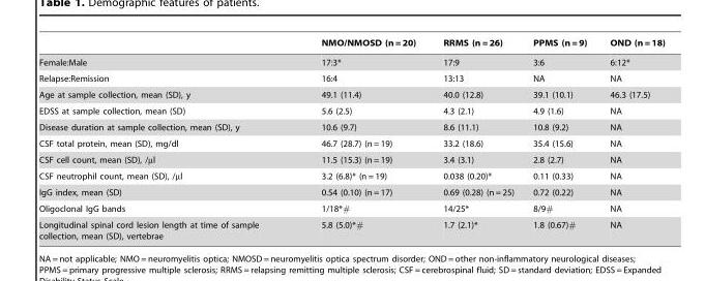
<table><thead><tr><td></td><td>NMO/NMOSD (n = 20)</td><td>RRMS (n = 26)</td><td>PPMS (n = 9)</td><td>OND (n = 18)</td></tr></thead><tbody><tr><td>Female:Male</td><td>17:3*</td><td>17:9</td><td>3:6</td><td>6:12*</td></tr><tr><td>Relapse:Remission</td><td>16:4</td><td>13:13</td><td>NA</td><td>NA</td></tr><tr><td>Age at sample collection, mean (SD), y</td><td>49.1 (11.4)</td><td>40.0 (12.8)</td><td>39.1 (10.1)</td><td>46.3 (17.5)</td></tr><tr><td>EDSS at sample collection, mean (SD)</td><td>5.6 (2.5)</td><td>4.3 (2.1)</td><td>4.9 (1.6)</td><td>NA</td></tr><tr><td>Disease duration at sample collection, mean (SD), y</td><td>10.6 (9.7)</td><td>8.6 (11.1)</td><td>10.8 (9.2)</td><td>NA</td></tr><tr><td>CSF total protein, mean (SD), mg/dl</td><td>46.7 (28.7) (n = 19)</td><td>33.2 (18.6)</td><td>35.4 (15.6)</td><td>NA</td></tr><tr><td>CSF cell count, mean (SD), /µl</td><td>11.5 (15.3) (n = 19)</td><td>3.4 (3.1)</td><td>2.8 (2.7)</td><td>NA</td></tr><tr><td>CSF neutrophil count, mean (SD), /µl</td><td>3.2 (6.8)* (n = 19)</td><td>0.038 (0.20)*</td><td>0.11 (0.33)</td><td>NA</td></tr><tr><td>IgG index, mean (SD)</td><td>0.54 (0.10) (n = 17)</td><td>0.69 (0.28) (n = 25)</td><td>0.72 (0.22)</td><td>NA</td></tr><tr><td>Oligoclonal IgG bands</td><td>1/18*#</td><td>14/25*</td><td>8/9#</td><td>NA</td></tr><tr><td>Longitudinal spinal cord lesion length at time of sample collection, mean (SD), vertebrae</td><td>5.8 (5.0)*#</td><td>1.7 (2.1)*</td><td>1.8 (0.67)#</td><td>NA</td></tr></tbody></table>